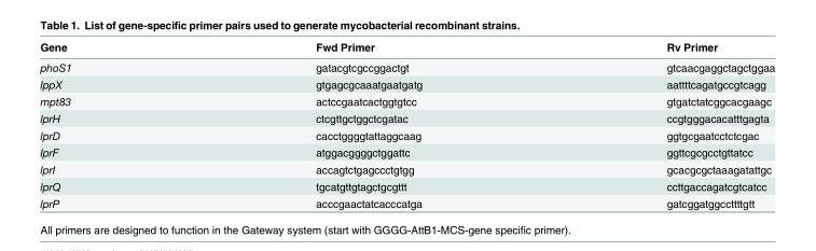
<table><thead><tr><td>Gene</td><td>Fwd Primer</td><td>Rv Primer</td></tr></thead><tbody><tr><td>phoS1</td><td>gatacgtcgccggactgt</td><td>gtcaacgaggctagctggaa</td></tr><tr><td>lppX</td><td>gtgagcgcaaatgaatgatg</td><td>aattttcagatgccgtcagg</td></tr><tr><td>mpt83</td><td>actccgaatcactggtgtcc</td><td>gtgatctatcggcacgaagc</td></tr><tr><td>lprH</td><td>ctcgttgctggctcgatac</td><td>ccgtgggacacatttgagta</td></tr><tr><td>lprD</td><td>cacctggggtattaggcaag</td><td>ggtgcgaatcctctcgac</td></tr><tr><td>lprF</td><td>atggacggggctggattc</td><td>ggttcgcgcctgttatcc</td></tr><tr><td>lprI</td><td>accagtctgagccctgtgg</td><td>gcacgcgctaaagatattgc</td></tr><tr><td>lprQ</td><td>tgcatgttgtagctgcgttt</td><td>ccttgaccagatcgtcatcc</td></tr><tr><td>lprP</td><td>acccgaactatcacccatga</td><td>gatcggatggccttttgtt</td></tr></tbody></table>